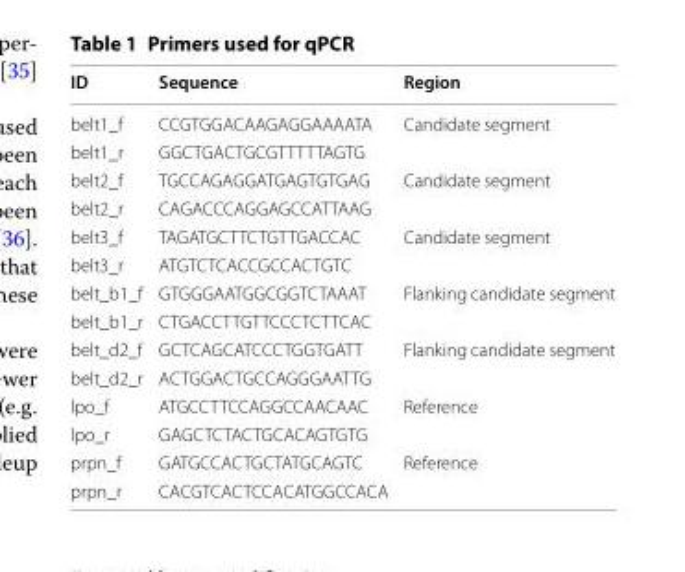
<table><thead><tr><td>ID</td><td>Sequence</td><td>Region</td></tr></thead><tbody><tr><td>belt1_f</td><td>CCG TGG ACA AGA GGA AAA TA</td><td>Candidate segment</td></tr><tr><td>belt1_r</td><td>GGC TGA CTG CGT TTT TAG TG</td><td></td></tr><tr><td>belt2_f</td><td>TGC CAG AGG ATG AGT GTG AG</td><td>Candidate segment</td></tr><tr><td>belt2_r</td><td>CAG ACC CAG GAG CCA TTA AG</td><td></td></tr><tr><td>belt3_f</td><td>TAG ATG CTT CTG TTG ACC AC</td><td>Candidate segment</td></tr><tr><td>belt3_r</td><td>ATG TCT CAC CGC CAC TGT C</td><td></td></tr><tr><td>belt_b1_f</td><td>GTG GGA ATG GCG GTC TAA AT</td><td>Flanking candidate segment</td></tr><tr><td>belt_b1_r</td><td>CTG ACC TTG TTC CCT CTT CAC</td><td></td></tr><tr><td>belt_d2_f</td><td>GCT CAG CAT CCC TGG TGA TT</td><td>Flanking candidate segment</td></tr><tr><td>belt_d2_r</td><td>ACT GGA CTG CCA GGG AAT TG</td><td></td></tr><tr><td>lpo_f</td><td>ATG CCT TCC AGG CCA ACA AC</td><td>Reference</td></tr><tr><td>lpo_r</td><td>GAG CTC TAC TGC ACA GTG TG</td><td></td></tr><tr><td>prpn_f</td><td>GAT GCC ACT GCT ATG CAG TC</td><td>Reference</td></tr><tr><td>prpn_r</td><td>CAC GTC ACT CCA CAT GGC CACA</td><td></td></tr></tbody></table>